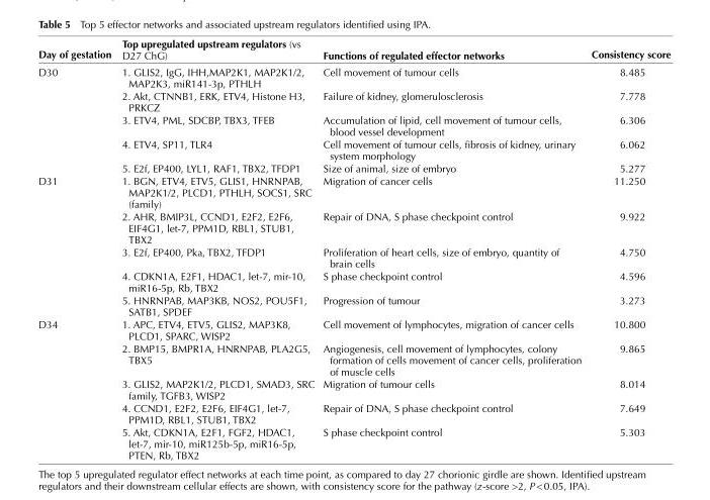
<table><thead><tr><td>Day of gestation</td><td>Top upregulated upstream regulators (vs D27 ChG)</td><td>Functions of regulated effector networks</td><td>Consistency score</td></tr></thead><tbody><tr><td rowspan="5">D30</td><td>1. GLIS2, IgG, IHH,MAP2K1, MAP2K1/2, MAP2K3, miR141-3p, PTHLH</td><td>Cell movement of tumour cells</td><td>8.485</td></tr><tr><td>2. Akt, CTNNB1, ERK, ETV4, Histone H3, PRKCZ</td><td>Failure of kidney, glomerulosclerosis</td><td>7.778</td></tr><tr><td>3. ETV4, PML, SDCBP, TBX3, TFEB</td><td>Accumulation of lipid, cell movement of tumour cells, blood vessel development</td><td>6.306</td></tr><tr><td>4. ETV4, SP11, TLR4</td><td>Cell movement of tumour cells, fibrosis of kidney, urinary system morphology</td><td>6.062</td></tr><tr><td>5. E2f, EP400, LYL1, RAF1, TBX2, TFDP1</td><td>Size of animal, size of embryo</td><td>5.277</td></tr><tr><td rowspan="5">D31</td><td>1. BGN, ETV4, ETV5, GLIS1, HNRNPAB, MAP2K1/2, PLCD1, PTHLH, SOCS1, SRC (family)</td><td>Migration of cancer cells</td><td>11.250</td></tr><tr><td>2. AHR, BMIP3L, CCND1, E2F2, E2F6, EIF4G1, let-7, PPM1D, RBL1, STUB1, TBX2</td><td>Repair of DNA, S phase checkpoint control</td><td>9.922</td></tr><tr><td>3. E2f, EP400, Pka, TBX2, TFDP1</td><td>Proliferation of heart cells, size of embryo, quantity of brain cells</td><td>4.750</td></tr><tr><td>4. CDKN1A, E2F1, HDAC1, let-7, mir-10, miR16-5p, Rb, TBX2</td><td>S phase checkpoint control</td><td>4.596</td></tr><tr><td>5. HNRNPAB, MAP3KB, NOS2, POU5F1, SATB1, SPDEF</td><td>Progression of tumour</td><td>3.273</td></tr><tr><td rowspan="5">D34</td><td>1. APC, ETV4, ETV5, GLIS2, MAP3K8, PLCD1, SPARC, WISP2</td><td>Cell movement of lymphocytes, migration of cancer cells</td><td>10.800</td></tr><tr><td>2. BMP15, BMPR1A, HNRNPAB, PLA2G5, TBX5</td><td>Angiogenesis, cell movement of lymphocytes, colony formation of cells movement of cancer cells, proliferation of muscle cells</td><td>9.865</td></tr><tr><td>3. GLIS2, MAP2K1/2, PLCD1, SMAD3, SRC family, TGFB3, WISP2</td><td>Migration of tumour cells</td><td>8.014</td></tr><tr><td>4. CCND1, E2F2, E2F6, EIF4G1, let-7, PPM1D, RBL1, STUB1, TBX2</td><td>Repair of DNA, S phase checkpoint control</td><td>7.649</td></tr><tr><td>5. Akt, CDKN1A, E2F1, FGF2, HDAC1, let-7, mir-10, miR125b-5p, miR16-5p, PTEN, Rb, TBX2</td><td>S phase checkpoint control</td><td>5.303</td></tr></tbody></table>